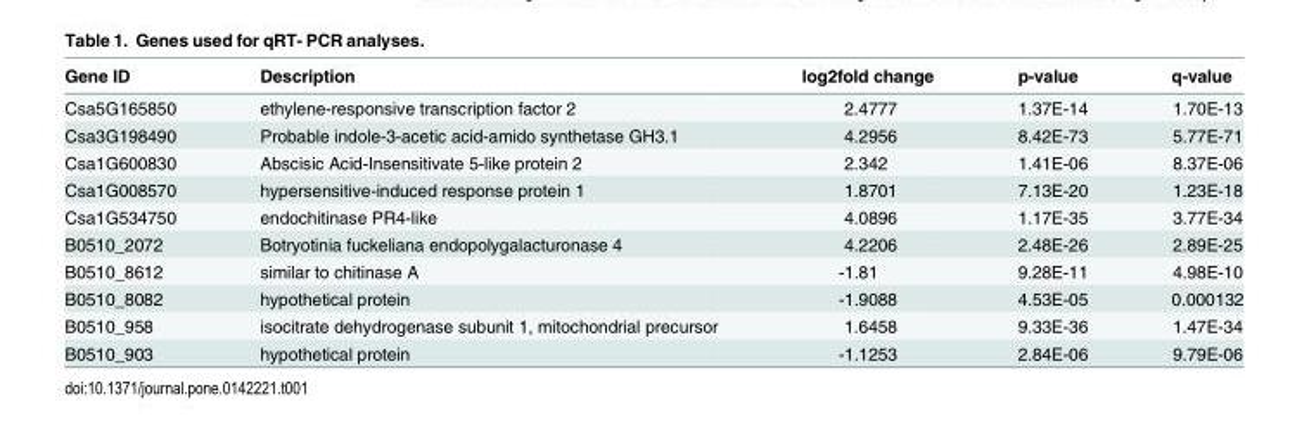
<table><thead><tr><td>Gene ID</td><td>Description</td><td>log2fold change</td><td>p-value</td><td>q-value</td></tr></thead><tbody><tr><td>Csa5G165850</td><td>ethylene-responsive transcription factor 2</td><td>2.4777</td><td>1.37E-14</td><td>1.70E-13</td></tr><tr><td>Csa3G198490</td><td>Probable indole-3-acetic acid-amido synthetase GH3.1</td><td>4.2956</td><td>8.42E-73</td><td>5.77E-71</td></tr><tr><td>Csa1G600830</td><td>Abscisic Acid-Insensitivate 5-like protein 2</td><td>2.342</td><td>1.41E-06</td><td>8.37E-06</td></tr><tr><td>Csa1G008570</td><td>hypersensitive-induced response protein 1</td><td>1.8701</td><td>7.13E-20</td><td>1.23E-18</td></tr><tr><td>Csa1G534750</td><td>endochitinase PR4-like</td><td>4.0896</td><td>1.17E-35</td><td>3.77E-34</td></tr><tr><td>B0510_2072</td><td>Botryotinia fuckeliana endopolygalacturonase 4</td><td>4.2206</td><td>2.48E-26</td><td>2.89E-25</td></tr><tr><td>B0510_8612</td><td>similar to chitinase A</td><td>-1.81</td><td>9.28E-11</td><td>4.98E-10</td></tr><tr><td>B0510_8082</td><td>hypothetical protein</td><td>-1.9088</td><td>4.53E-05</td><td>0.000132</td></tr><tr><td>B0510_958</td><td>isocitrate dehydrogenase subunit 1, mitochondrial precursor</td><td>1.6458</td><td>9.33E-36</td><td>1.47E-34</td></tr><tr><td>B0510_903</td><td>hypothetical protein</td><td>-1.1253</td><td>2.84E-06</td><td>9.79E-06</td></tr></tbody></table>